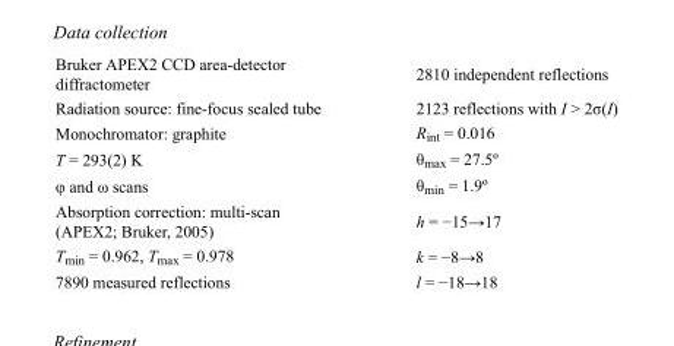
<table><tbody><tr><td>Bruker APEX2 CCD area-detector diffractometer</td><td>2810 independent reflections</td></tr><tr><td>Radiation source: fine-focus sealed tube</td><td>2123 reflections with I &gt; 2σ(I)</td></tr><tr><td>Monochromator: graphite</td><td>R<sub>int</sub> = 0.016</td></tr><tr><td>T = 293(2) K</td><td>θ<sub>max</sub> = 27.5º</td></tr><tr><td>φ and ω scans</td><td>θ<sub>min</sub> = 1.9º</td></tr><tr><td>Absorption correction: multi-scan (APEX2; Bruker, 2005)</td><td>h = −15→17</td></tr><tr><td>T<sub>min</sub> = 0.962, T<sub>max</sub> = 0.978</td><td>k = −8→8</td></tr><tr><td>7890 measured reflections</td><td>l = −18→18</td></tr></tbody></table>